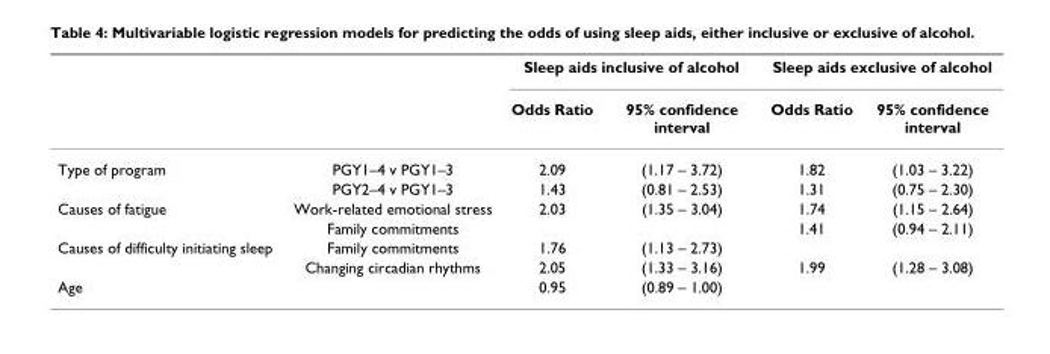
<table><thead><tr><td rowspan="2"></td><td rowspan="2"></td><td colspan="2">Sleep aids inclusive of alcohol</td><td colspan="2">Sleep aids exclusive of alcohol</td></tr><tr><td>Odds Ratio</td><td>95% confidence interval</td><td>Odds Ratio</td><td>95% confidence interval</td></tr></thead><tbody><tr><td rowspan="2">Type of program</td><td>PGY1–4 v PGY1–3</td><td>2.09</td><td>(1.17 – 3.72)</td><td>1.82</td><td>(1.03 – 3.22)</td></tr><tr><td>PGY2–4 v PGY1–3</td><td>1.43</td><td>(0.81 – 2.53)</td><td>1.31</td><td>(0.75 – 2.30)</td></tr><tr><td rowspan="2">Causes of fatigue</td><td>Work-related emotional stress</td><td>2.03</td><td>(1.35 – 3.04)</td><td>1.74</td><td>(1.15 – 2.64)</td></tr><tr><td>Family commitments</td><td></td><td></td><td>1.41</td><td>(0.94 – 2.11)</td></tr><tr><td rowspan="2">Causes of difficulty initiating sleep</td><td>Family commitments</td><td>1.76</td><td>(1.13 – 2.73)</td><td></td><td></td></tr><tr><td>Changing circadian rhythms</td><td>2.05</td><td>(1.33 – 3.16)</td><td>1.99</td><td>(1.28 – 3.08)</td></tr><tr><td>Age</td><td></td><td>0.95</td><td>(0.89 – 1.00)</td><td></td><td></td></tr></tbody></table>